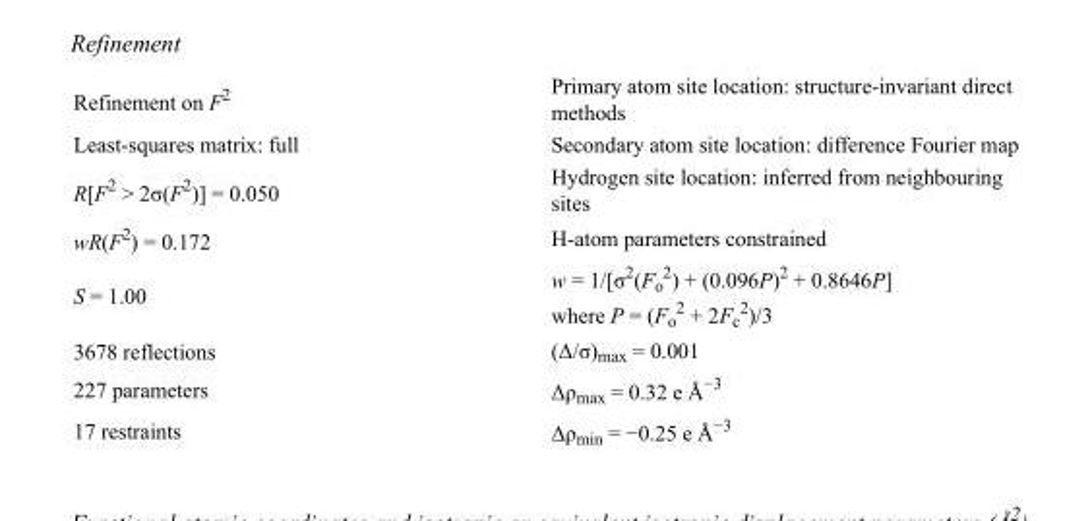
<table><tbody><tr><td>Refinement on F<sup>2</sup></td><td>Primary atom site location: structure-invariant direct methods</td></tr><tr><td>Least-squares matrix: full</td><td>Secondary atom site location: difference Fourier map</td></tr><tr><td>R[F<sup>2</sup> &gt; 2σ(F<sup>2</sup>)] = 0.050</td><td>Hydrogen site location: inferred from neighbouring sites</td></tr><tr><td>wR(F<sup>2</sup>) = 0.172</td><td>H-atom parameters constrained</td></tr><tr><td>S = 1.00</td><td>w = 1/[σ<sup>2</sup>(F<sub>o</sub> <sup>2</sup>) + (0.096P)<sup>2</sup> + 0.8646P] where P = (F<sub>o</sub> <sup>2</sup> + 2F<sub>c</sub> <sup>2</sup>)/3</td></tr><tr><td>3678 reflections</td><td>(Δ/σ)<sub>max</sub> = 0.001</td></tr><tr><td>227 parameters</td><td>Δρ<sub>max</sub> = 0.32 e Å<sup>−3</sup></td></tr><tr><td>17 restraints</td><td>Δρ<sub>min</sub> = −0.25 e Å<sup>−3</sup></td></tr></tbody></table>